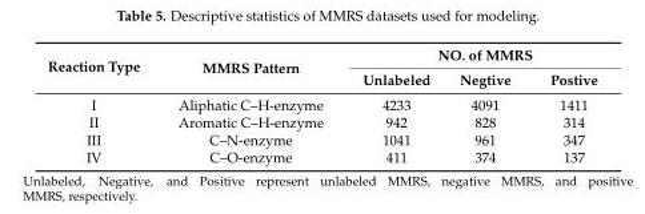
<table><thead><tr><td rowspan="2">Reaction Type</td><td rowspan="2">MMRS Pattern</td><td colspan="3">NO. of MMRS</td></tr><tr><td>Unlabeled</td><td>Negtive</td><td>Postive</td></tr></thead><tbody><tr><td>I</td><td>Aliphatic C–H-enzyme</td><td>4233</td><td>4091</td><td>1411</td></tr><tr><td>II</td><td>Aromatic C–H-enzyme</td><td>942</td><td>828</td><td>314</td></tr><tr><td>III</td><td>C–N-enzyme</td><td>1041</td><td>961</td><td>347</td></tr><tr><td>IV</td><td>C–O-enzyme</td><td>411</td><td>374</td><td>137</td></tr></tbody></table>